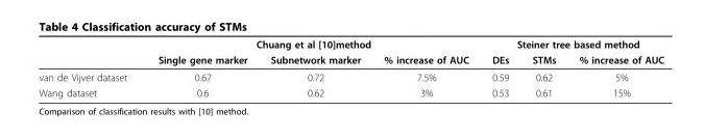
<table><thead><tr><td rowspan="2"></td><td colspan="3">Chuang et al [10]method</td><td colspan="3">Steiner tree based method</td></tr><tr><td>Single gene marker</td><td>Subnetwork marker</td><td>% increase of AUC</td><td>DEs</td><td>STMs</td><td>% increase of AUC</td></tr></thead><tbody><tr><td>van de Vijver dataset</td><td>0.67</td><td>0.72</td><td>7.5%</td><td>0.59</td><td>0.62</td><td>5%</td></tr><tr><td>Wang dataset</td><td>0.6</td><td>0.62</td><td>3%</td><td>0.53</td><td>0.61</td><td>15%</td></tr></tbody></table>